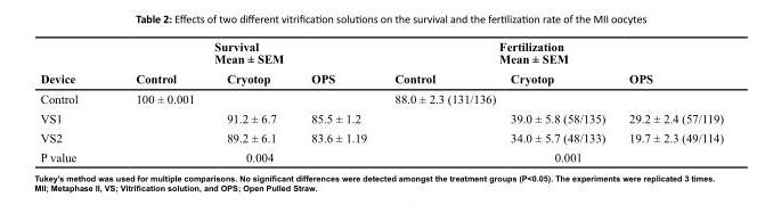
<table><thead><tr><td rowspan="2">Device</td><td colspan="3">Survival Mean ± SEM</td><td colspan="3">Fertilization Mean ± SEM</td></tr><tr><td>Control</td><td>Cryotop</td><td>OPS</td><td>Control</td><td>Cryotop</td><td>OPS</td></tr></thead><tbody><tr><td>Control</td><td>100 ± 0.001</td><td></td><td></td><td>88.0 ± 2.3 (131/136)</td><td></td><td></td></tr><tr><td>VS1</td><td></td><td>91.2 ± 6.7</td><td>85.5 ± 1.2</td><td></td><td>39.0 ± 5.8 (58/135)</td><td>29.2 ± 2.4 (57/119)</td></tr><tr><td>VS2</td><td></td><td>89.2 ± 6.1</td><td>83.6 ± 1.19</td><td></td><td>34.0 ± 5.7 (48/133)</td><td>19.7 ± 2.3 (49/114)</td></tr><tr><td>P value</td><td></td><td>0.004</td><td></td><td></td><td>0.001</td><td></td></tr></tbody></table>